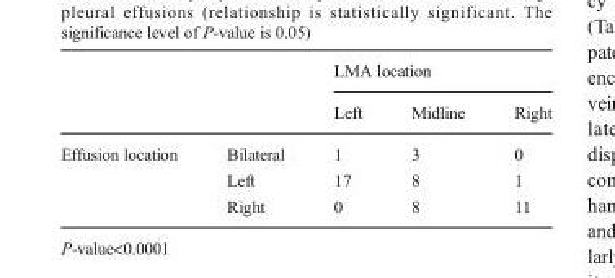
<table><thead><tr><td rowspan="2"></td><td rowspan="2"></td><td colspan="3">LMA location</td></tr><tr><td>Left</td><td>Midline</td><td>Right</td></tr></thead><tbody><tr><td rowspan="3">Effusion location</td><td>Bilateral</td><td>1</td><td>3</td><td>0</td></tr><tr><td>Left</td><td>17</td><td>8</td><td>1</td></tr><tr><td>Right</td><td>0</td><td>8</td><td>11</td></tr></tbody></table>